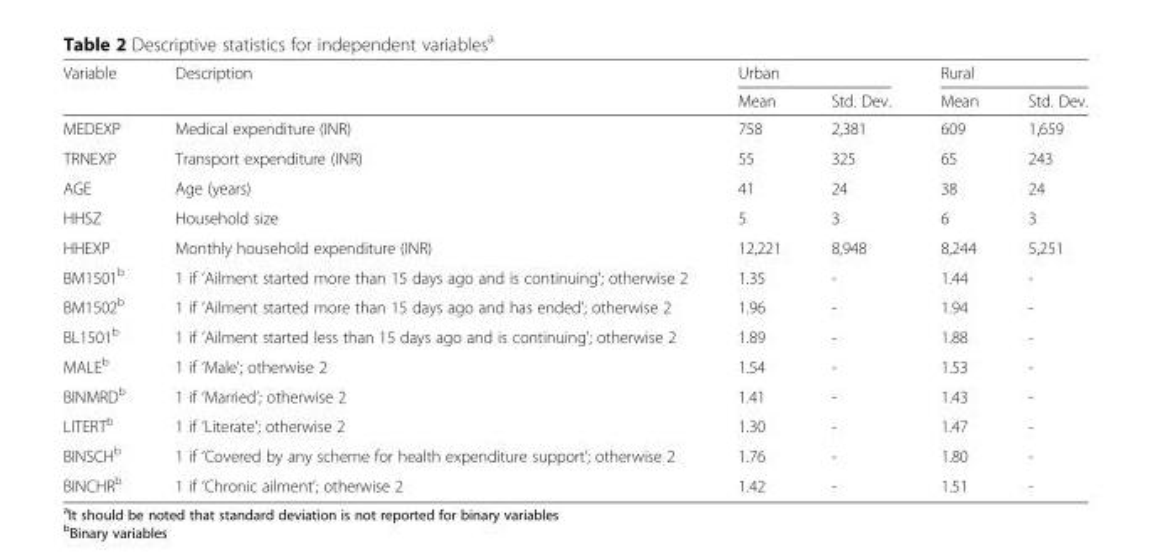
<table><thead><tr><td rowspan="2">Variable</td><td rowspan="2">Description</td><td colspan="2">Urban</td><td colspan="2">Rural</td></tr><tr><td>Mean</td><td>Std. Dev.</td><td>Mean</td><td>Std. Dev.</td></tr></thead><tbody><tr><td>MEDEXP</td><td>Medical expenditure (INR)</td><td>758</td><td>2,381</td><td>609</td><td>1,659</td></tr><tr><td>TRNEXP</td><td>Transport expenditure (INR)</td><td>55</td><td>325</td><td>65</td><td>243</td></tr><tr><td>AGE</td><td>Age (years)</td><td>41</td><td>24</td><td>38</td><td>24</td></tr><tr><td>HHSZ</td><td>Household size</td><td>5</td><td>3</td><td>6</td><td>3</td></tr><tr><td>HHEXP</td><td>Monthly household expenditure (INR)</td><td>12,221</td><td>8,948</td><td>8,244</td><td>5,251</td></tr><tr><td>BM1501<sup>b</sup></td><td>1 if ‘Ailment started more than 15 days ago and is continuing’; otherwise 2</td><td>1.35</td><td>-</td><td>1.44</td><td>-</td></tr><tr><td>BM1502<sup>b</sup></td><td>1 if ‘Ailment started more than 15 days ago and has ended’; otherwise 2</td><td>1.96</td><td>-</td><td>1.94</td><td>-</td></tr><tr><td>BL1501<sup>b</sup></td><td>1 if ‘Ailment started less than 15 days ago and is continuing’; otherwise 2</td><td>1.89</td><td>-</td><td>1.88</td><td>-</td></tr><tr><td>MALE<sup>b</sup></td><td>1 if ‘Male’; otherwise 2</td><td>1.54</td><td>-</td><td>1.53</td><td>-</td></tr><tr><td>BINMRD<sup>b</sup></td><td>1 if ‘Married’; otherwise 2</td><td>1.41</td><td>-</td><td>1.43</td><td>-</td></tr><tr><td>LITERT<sup>b</sup></td><td>1 if ‘Literate’; otherwise 2</td><td>1.30</td><td>-</td><td>1.47</td><td>-</td></tr><tr><td>BINSCH<sup>b</sup></td><td>1 if ‘Covered by any scheme for health expenditure support’; otherwise 2</td><td>1.76</td><td>-</td><td>1.80</td><td>-</td></tr><tr><td>BINCHR<sup>b</sup></td><td>1 if ‘Chronic ailment’; otherwise 2</td><td>1.42</td><td>-</td><td>1.51</td><td>-</td></tr></tbody></table>